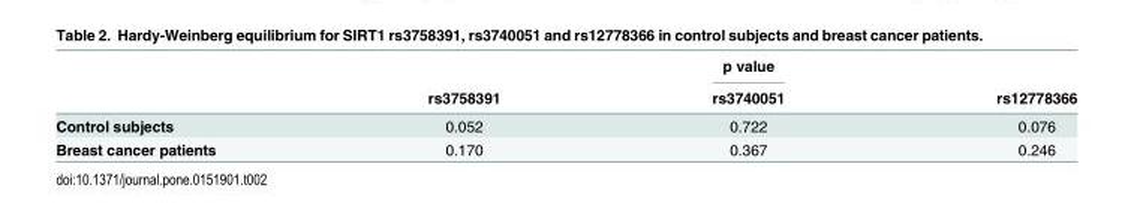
<table><thead><tr><td rowspan="2"></td><td rowspan="2">rs3758391</td><td rowspan="2">p value rs3740051</td><td rowspan="2">rs12778366</td></tr><tr></tr></thead><tbody><tr><td>Control subjects</td><td>0.052</td><td>0.722</td><td>0.076</td></tr><tr><td>Breast cancer patients</td><td>0.170</td><td>0.367</td><td>0.246</td></tr></tbody></table>